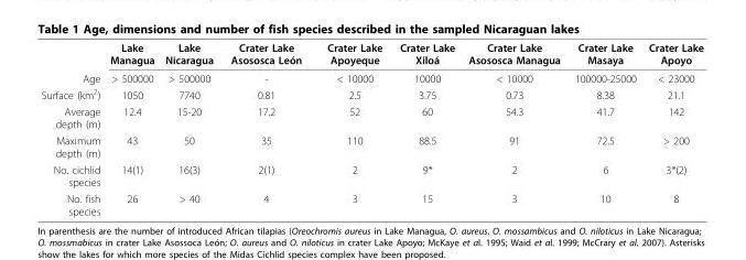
<table><thead><tr><td></td><td>Lake Managua</td><td>Lake Nicaragua</td><td>Crater Lake Asososca León</td><td>Crater Lake Apoyeque</td><td>Crater Lake Xiloá</td><td>Crater Lake Asososca Managua</td><td>Crater Lake Masaya</td><td>Crater Lake Apoyo</td></tr></thead><tbody><tr><td>Age</td><td>&gt; 500000</td><td>&gt; 500000</td><td>-</td><td>&lt; 10000</td><td>10000</td><td>&lt; 10000</td><td>100000-25000</td><td>&lt; 23000</td></tr><tr><td>Surface (km<sup>2</sup>)</td><td>1050</td><td>7740</td><td>0.81</td><td>2.5</td><td>3.75</td><td>0.73</td><td>8.38</td><td>21.1</td></tr><tr><td>Average depth (m)</td><td>12.4</td><td>15-20</td><td>17.2</td><td>52</td><td>60</td><td>54.3</td><td>41.7</td><td>142</td></tr><tr><td>Maximum depth (m)</td><td>43</td><td>50</td><td>35</td><td>110</td><td>88.5</td><td>91</td><td>72.5</td><td>&gt; 200</td></tr><tr><td>No. cichlid species</td><td>14(1)</td><td>16(3)</td><td>2(1)</td><td>2</td><td>9*</td><td>2</td><td>6</td><td>3*(2)</td></tr><tr><td>No. fish species</td><td>26</td><td>&gt; 40</td><td>4</td><td>3</td><td>15</td><td>3</td><td>10</td><td>8</td></tr></tbody></table>